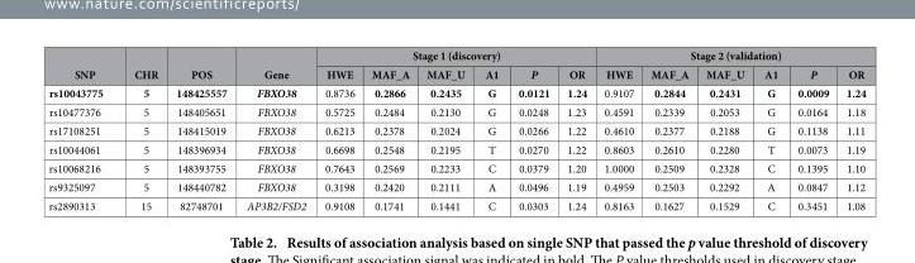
<table><thead><tr><td rowspan="2">SNP</td><td rowspan="2">CHR</td><td rowspan="2">POS</td><td rowspan="2">Gene</td><td colspan="6">Stage 1 (discovery)</td><td colspan="6">Stage 2 (validation)</td></tr><tr><td>HWE</td><td>MAF_A</td><td>MAF_U</td><td>A1</td><td>P</td><td>OR</td><td>HWE</td><td>MAF_A</td><td>MAF_U</td><td>A1</td><td>P</td><td>OR</td></tr></thead><tbody><tr><td>rs10043775</td><td>5</td><td>148425557</td><td>FBXO38</td><td>0.8736</td><td>0.2866</td><td>0.2435</td><td>G</td><td>0.0121</td><td>1.24</td><td>0.9107</td><td>0.2844</td><td>0.2431</td><td>G</td><td>0.0009</td><td>1.24</td></tr><tr><td>rs10477376</td><td>5</td><td>148405651</td><td>FBXO38</td><td>0.5725</td><td>0.2484</td><td>0.2130</td><td>G</td><td>0.0248</td><td>1.23</td><td>0.4591</td><td>0.2339</td><td>0.2053</td><td>G</td><td>0.0164</td><td>1.18</td></tr><tr><td>rs17108251</td><td>5</td><td>148415019</td><td>FBXO38</td><td>0.6213</td><td>0.2378</td><td>0.2024</td><td>G</td><td>0.0266</td><td>1.22</td><td>0.4610</td><td>0.2377</td><td>0.2188</td><td>G</td><td>0.1138</td><td>1.11</td></tr><tr><td>rs10044061</td><td>5</td><td>148396934</td><td>FBXO38</td><td>0.6698</td><td>0.2548</td><td>0.2195</td><td>T</td><td>0.0270</td><td>1.22</td><td>0.8603</td><td>0.2610</td><td>0.2280</td><td>T</td><td>0.0073</td><td>1.19</td></tr><tr><td>rs10068216</td><td>5</td><td>148393755</td><td>FBXO38</td><td>0.7643</td><td>0.2569</td><td>0.2233</td><td>C</td><td>0.0379</td><td>1.20</td><td>1.0000</td><td>0.2509</td><td>0.2328</td><td>C</td><td>0.1395</td><td>1.10</td></tr><tr><td>rs9325097</td><td>5</td><td>148440782</td><td>FBXO38</td><td>0.3198</td><td>0.2420</td><td>0.2111</td><td>A</td><td>0.0496</td><td>1.19</td><td>0.4959</td><td>0.2503</td><td>0.2292</td><td>A</td><td>0.0847</td><td>1.12</td></tr><tr><td>rs2890313</td><td>15</td><td>82748701</td><td>AP3B2/FSD2</td><td>0.9108</td><td>0.1741</td><td>0.1441</td><td>C</td><td>0.0303</td><td>1.24</td><td>0.8163</td><td>0.1627</td><td>0.1529</td><td>C</td><td>0.3451</td><td>1.08</td></tr></tbody></table>